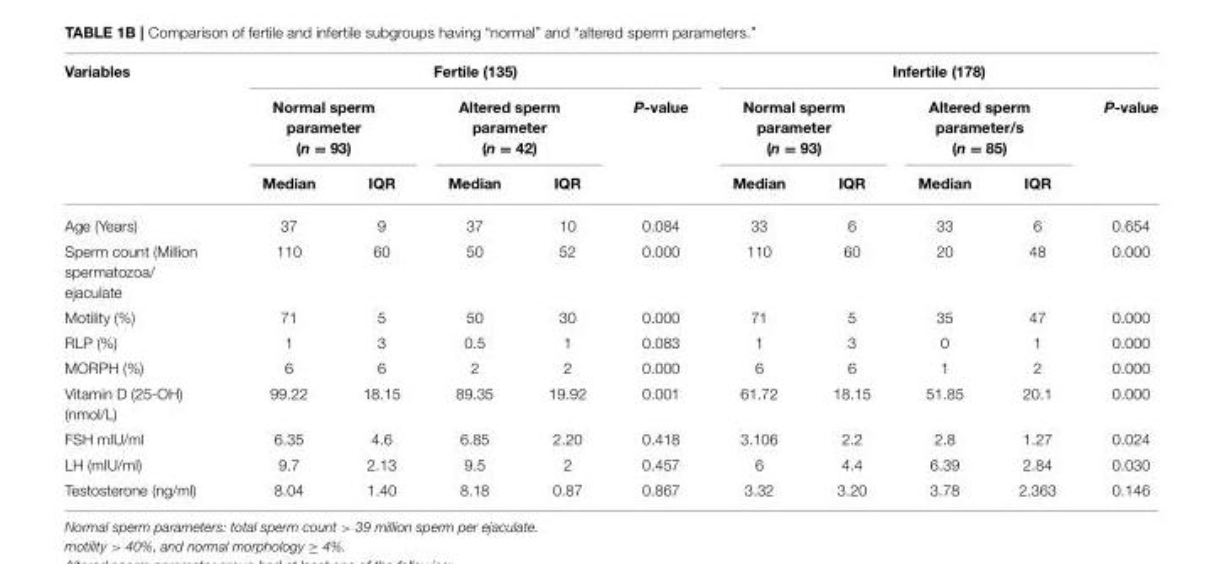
<table><thead><tr><td rowspan="3">Variables</td><td colspan="5">Fertile (135)</td><td colspan="5">Infertile (178)</td></tr><tr><td colspan="2">Normal sperm parameter (n = 93)</td><td colspan="2">Altered sperm parameter (n = 42)</td><td rowspan="2">P-value</td><td colspan="2">Normal sperm parameter (n = 93)</td><td colspan="2">Altered sperm parameter/s (n = 85)</td><td rowspan="2">P-value</td></tr><tr><td>Median</td><td>IQR</td><td>Median</td><td>IQR</td><td>Median</td><td>IQR</td><td>Median</td><td>IQR</td></tr></thead><tbody><tr><td>Age (Years)</td><td>37</td><td>9</td><td>37</td><td>10</td><td>0.084</td><td>33</td><td>6</td><td>33</td><td>6</td><td>0.654</td></tr><tr><td>Sperm count (Million spermatozoa/ ejaculate</td><td>110</td><td>60</td><td>50</td><td>52</td><td>0.000</td><td>110</td><td>60</td><td>20</td><td>48</td><td>0.000</td></tr><tr><td>Motility (%)</td><td>71</td><td>5</td><td>50</td><td>30</td><td>0.000</td><td>71</td><td>5</td><td>35</td><td>47</td><td>0.000</td></tr><tr><td>RLP (%)</td><td>1</td><td>3</td><td>0.5</td><td>1</td><td>0.083</td><td>1</td><td>3</td><td>0</td><td>1</td><td>0.000</td></tr><tr><td>MORPH (%)</td><td>6</td><td>6</td><td>2</td><td>2</td><td>0.000</td><td>6</td><td>6</td><td>1</td><td>2</td><td>0.000</td></tr><tr><td>Vitamin D (25-OH) (nmol/L)</td><td>99.22</td><td>18.15</td><td>89.35</td><td>19.92</td><td>0.001</td><td>61.72</td><td>18.15</td><td>51.85</td><td>20.1</td><td>0.000</td></tr><tr><td>FSH mIU/ml</td><td>6.35</td><td>4.6</td><td>6.85</td><td>2.20</td><td>0.418</td><td>3.106</td><td>2.2</td><td>2.8</td><td>1.27</td><td>0.024</td></tr><tr><td>LH (mIU/ml)</td><td>9.7</td><td>2.13</td><td>9.5</td><td>2</td><td>0.457</td><td>6</td><td>4.4</td><td>6.39</td><td>2.84</td><td>0.030</td></tr><tr><td>Testosterone (ng/ml)</td><td>8.04</td><td>1.40</td><td>8.18</td><td>0.87</td><td>0.867</td><td>3.32</td><td>3.20</td><td>3.78</td><td>2.363</td><td>0.146</td></tr></tbody></table>